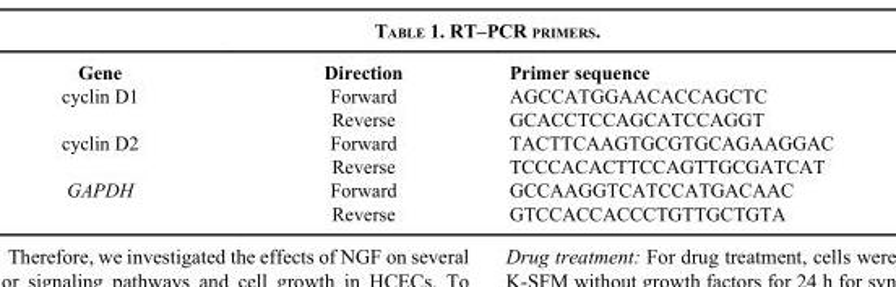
<table><thead><tr><td>Gene</td><td>Direction</td><td>Primer sequence</td></tr></thead><tbody><tr><td rowspan="2">cyclin D1</td><td>Forward</td><td>AGCCATGGAACACCAGCTC</td></tr><tr><td>Reverse</td><td>GCACCTCCAGCATCCAGGT</td></tr><tr><td rowspan="2">cyclin D2</td><td>Forward</td><td>TACTTCAAGTGCGTGCAGAAGGAC</td></tr><tr><td>Reverse</td><td>TCCCACACTTCCAGTTGCGATCAT</td></tr><tr><td rowspan="2">GAPDH</td><td>Forward</td><td>GCCAAGGTCATCCATGACAAC</td></tr><tr><td>Reverse</td><td>GTCCACCACCCTGTTGCTGTA</td></tr></tbody></table>